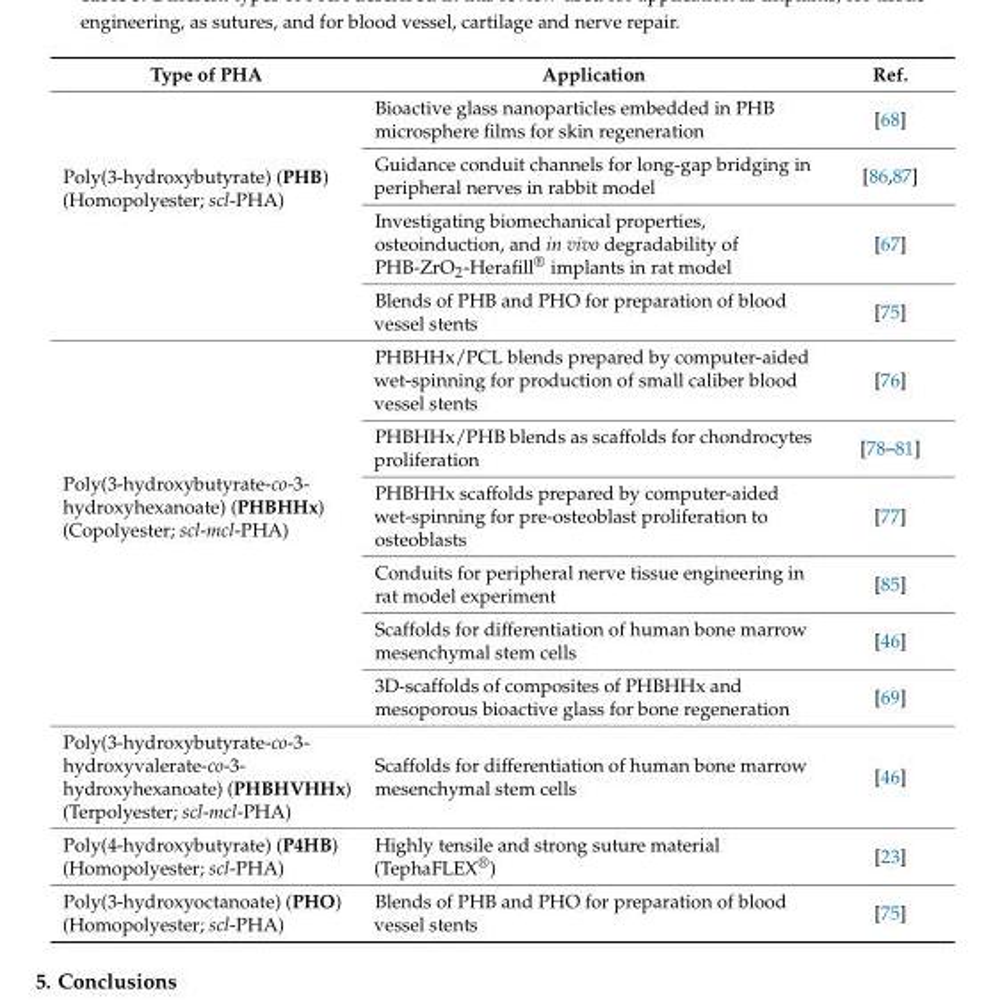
<table><thead><tr><td>Type of PHA</td><td>Application</td><td>Ref.</td></tr></thead><tbody><tr><td rowspan="4">Poly(3-hydroxybutyrate) (PHB) (Homopolyester; scl-PHA)</td><td>Bioactive glass nanoparticles embedded in PHB microsphere films for skin regeneration</td><td>[68]</td></tr><tr><td>Guidance conduit channels for long-gap bridging in peripheral nerves in rabbit model</td><td>[86,87]</td></tr><tr><td>Investigating biomechanical properties, osteoinduction, and in vivo degradability of PHB-ZrO<sub>2</sub>-Herafill<sup>®</sup> implants in rat model</td><td>[67]</td></tr><tr><td>Blends of PHB and PHO for preparation of blood vessel stents</td><td>[75]</td></tr><tr><td rowspan="6">Poly(3-hydroxybutyrate-co-3- hydroxyhexanoate) (PHBHHx) (Copolyester; scl-mcl-PHA)</td><td>PHBHHx/PCL blends prepared by computer-aided wet-spinning for production of small caliber blood vessel stents</td><td>[76]</td></tr><tr><td>PHBHHx/PHB blends as scaffolds for chondrocytes proliferation</td><td>[78–81]</td></tr><tr><td>PHBHHx scaffolds prepared by computer-aided wet-spinning for pre-osteoblast proliferation to osteoblasts</td><td>[77]</td></tr><tr><td>Conduits for peripheral nerve tissue engineering in rat model experiment</td><td>[85]</td></tr><tr><td>Scaffolds for differentiation of human bone marrow mesenchymal stem cells</td><td>[46]</td></tr><tr><td>3D-scaffolds of composites of PHBHHx and mesoporous bioactive glass for bone regeneration</td><td>[69]</td></tr><tr><td>Poly(3-hydroxybutyrate-co-3- hydroxyvalerate-co-3- hydroxyhexanoate) (PHBHVHHx) (Terpolyester; scl-mcl-PHA)</td><td>Scaffolds for differentiation of human bone marrow mesenchymal stem cells</td><td>[46]</td></tr><tr><td>Poly(4-hydroxybutyrate) (P4HB) (Homopolyester; scl-PHA)</td><td>Highly tensile and strong suture material (TephaFLEX<sup>®</sup>)</td><td>[23]</td></tr><tr><td>Poly(3-hydroxyoctanoate) (PHO) (Homopolyester; scl-PHA)</td><td>Blends of PHB and PHO for preparation of blood vessel stents</td><td>[75]</td></tr></tbody></table>